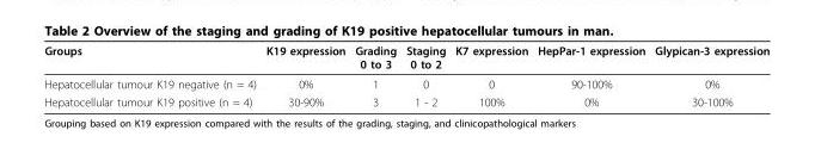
<table><thead><tr><td>Groups</td><td>K19 expression</td><td>Grading 0 to 3</td><td>Staging 0 to 2</td><td>K7 expression</td><td>HepPar-1 expression</td><td>Glypican-3 expression</td></tr></thead><tbody><tr><td>Hepatocellular tumour K19 negative (n = 4)</td><td>0%</td><td>1</td><td>0</td><td>0</td><td>90-100%</td><td>0%</td></tr><tr><td>Hepatocellular tumour K19 positive (n = 4)</td><td>30-90%</td><td>3</td><td>1 - 2</td><td>100%</td><td>0%</td><td>30-100%</td></tr></tbody></table>